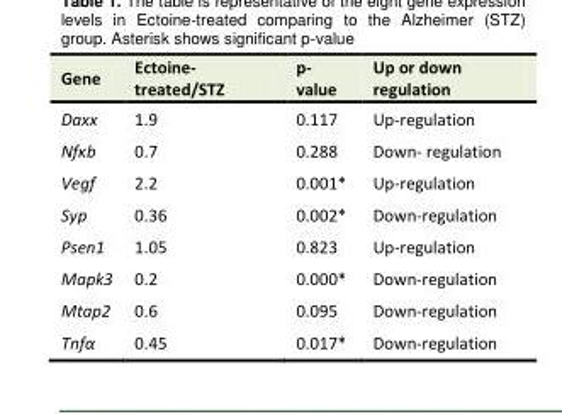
<table><tbody><tr><td>Gene</td><td>Ectoine- treated/STZ</td><td>p- value</td><td>Up or down regulation</td></tr><tr><td>Daxx</td><td>1.9</td><td>0.117</td><td>Up-regulation</td></tr><tr><td>Nfκb</td><td>0.7</td><td>0.288</td><td>Down- regulation</td></tr><tr><td>Vegf</td><td>2.2</td><td>0.001*</td><td>Up-regulation</td></tr><tr><td>Syp</td><td>0.36</td><td>0.002*</td><td>Down-regulation</td></tr><tr><td>Psen1</td><td>1.05</td><td>0.823</td><td>Up-regulation</td></tr><tr><td>Mapk3</td><td>0.2</td><td>0.000*</td><td>Down-regulation</td></tr><tr><td>Mtap2</td><td>0.6</td><td>0.095</td><td>Down-regulation</td></tr><tr><td>Tnfα</td><td>0.45</td><td>0.017*</td><td>Down-regulation</td></tr></tbody></table>